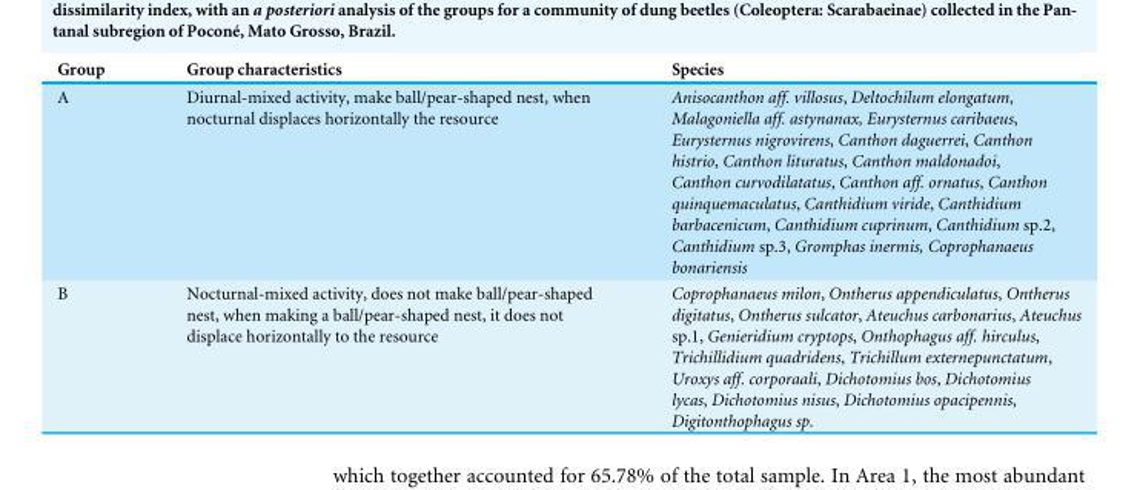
<table><thead><tr><td>Group</td><td>Group characteristics</td><td>Species</td></tr></thead><tbody><tr><td>A</td><td>Diurnal-mixed activity, make ball/pear-shaped nest, when nocturnal displaces horizontally the resource</td><td>Anisocanthon aff. villosus, Deltochilum elongatum, Malagoniella aff. astynanax, Eurysternus caribaeus, Eurysternus nigrovirens, Canthon daguerrei, Canthon histrio, Canthon lituratus, Canthon maldonadoi, Canthon curvodilatatus, Canthon aff. ornatus, Canthon quinquemaculatus, Canthidium viride, Canthidium barbacenicum, Canthidium cuprinum, Canthidium sp.2, Canthidium sp.3, Gromphas inermis, Coprophanaeus bonariensis</td></tr><tr><td>B</td><td>Nocturnal-mixed activity, does not make ball/pear-shaped nest, when making a ball/pear-shaped nest, it does not displace horizontally to the resource</td><td>Coprophanaeus milon, Ontherus appendiculatus, Ontherus digitatus, Ontherus sulcator, Ateuchus carbonarius, Ateuchus sp.1, Genieridium cryptops, Onthophagus aff. hirculus, Trichillidium quadridens, Trichillum externepunctatum, Uroxys aff. corporaali, Dichotomius bos, Dichotomius lycas, Dichotomius nisus, Dichotomius opacipennis, Digitonthophagus sp.</td></tr></tbody></table>